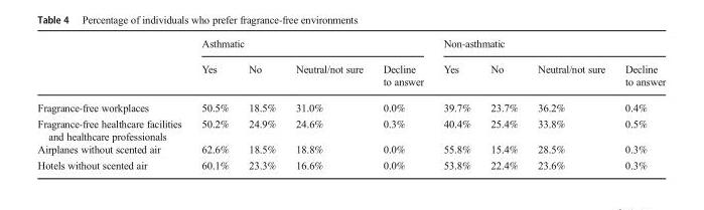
<table><thead><tr><td rowspan="2"></td><td colspan="4">Asthmatic</td><td colspan="4">Non-asthmatic</td></tr><tr><td>Yes</td><td>No</td><td>Neutral/not sure</td><td>Decline to answer</td><td>Yes</td><td>No</td><td>Neutral/not sure</td><td>Decline to answer</td></tr></thead><tbody><tr><td>Fragrance-free workplaces</td><td>50.5%</td><td>18.5%</td><td>31.0%</td><td>0.0%</td><td>39.7%</td><td>23.7%</td><td>36.2%</td><td>0.4%</td></tr><tr><td>Fragrance-free healthcare facilities and healthcare professionals</td><td>50.2%</td><td>24.9%</td><td>24.6%</td><td>0.3%</td><td>40.4%</td><td>25.4%</td><td>33.8%</td><td>0.5%</td></tr><tr><td>Airplanes without scented air</td><td>62.6%</td><td>18.5%</td><td>18.8%</td><td>0.0%</td><td>55.8%</td><td>15.4%</td><td>28.5%</td><td>0.3%</td></tr><tr><td>Hotels without scented air</td><td>60.1%</td><td>23.3%</td><td>16.6%</td><td>0.0%</td><td>53.8%</td><td>22.4%</td><td>23.6%</td><td>0.3%</td></tr></tbody></table>